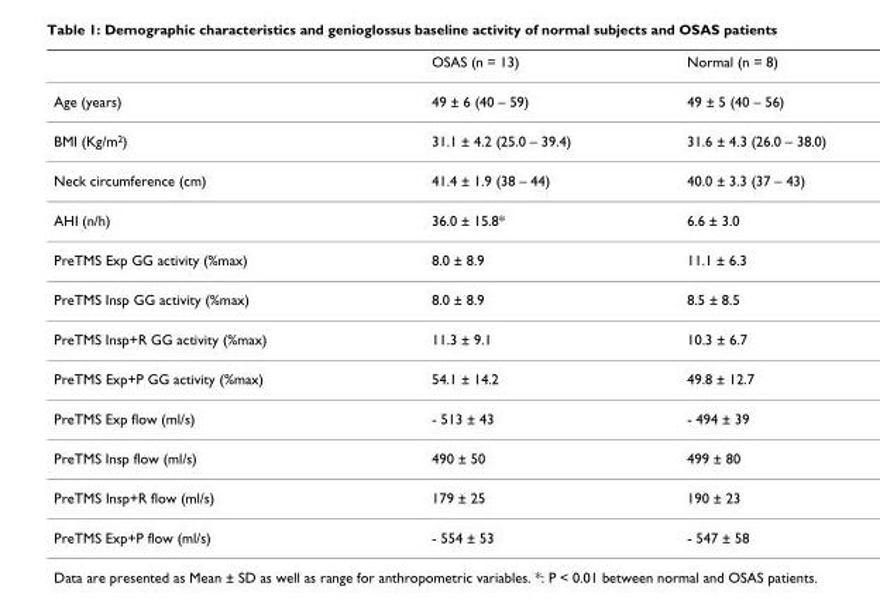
<table><thead><tr><td></td><td>OSAS (n = 13)</td><td>Normal (n = 8)</td></tr></thead><tbody><tr><td>Age (years)</td><td>49 ± 6 (40 – 59)</td><td>49 ± 5 (40 – 56)</td></tr><tr><td>BMI (Kg/m<sup>2</sup>)</td><td>31.1 ± 4.2 (25.0 – 39.4)</td><td>31.6 ± 4.3 (26.0 – 38.0)</td></tr><tr><td>Neck circumference (cm)</td><td>41.4 ± 1.9 (38 – 44)</td><td>40.0 ± 3.3 (37 – 43)</td></tr><tr><td>AHI (n/h)</td><td>36.0 ± 15.8*</td><td>6.6 ± 3.0</td></tr><tr><td>PreTMS Exp GG activity (%max)</td><td>8.0 ± 8.9</td><td>11.1 ± 6.3</td></tr><tr><td>PreTMS Insp GG activity (%max)</td><td>8.0 ± 8.9</td><td>8.5 ± 8.5</td></tr><tr><td>PreTMS Insp+R GG activity (%max)</td><td>11.3 ± 9.1</td><td>10.3 ± 6.7</td></tr><tr><td>PreTMS Exp+P GG activity (%max)</td><td>54.1 ± 14.2</td><td>49.8 ± 12.7</td></tr><tr><td>PreTMS Exp flow (ml/s)</td><td>- 513 ± 43</td><td>- 494 ± 39</td></tr><tr><td>PreTMS Insp flow (ml/s)</td><td>490 ± 50</td><td>499 ± 80</td></tr><tr><td>PreTMS Insp+R flow (ml/s)</td><td>179 ± 25</td><td>190 ± 23</td></tr><tr><td>PreTMS Exp+P flow (ml/s)</td><td>- 554 ± 53</td><td>- 547 ± 58</td></tr></tbody></table>